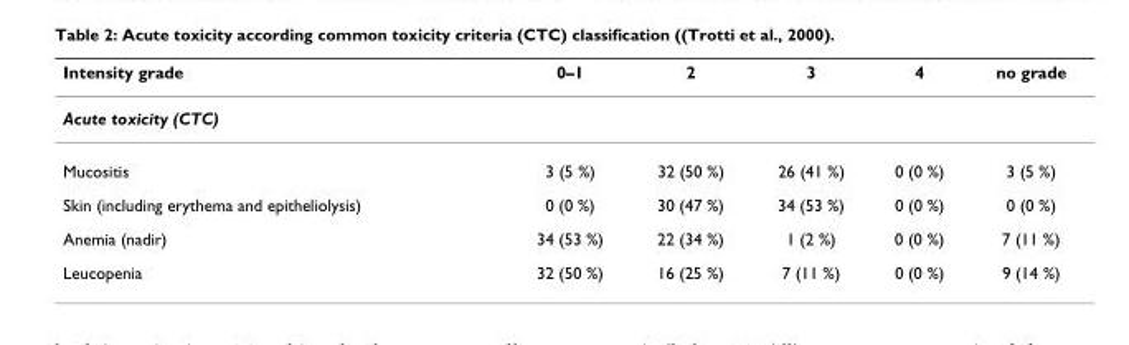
<table><thead><tr><td>Intensity grade</td><td>0–1</td><td>2</td><td>3</td><td>4</td><td>no grade</td></tr></thead><tbody><tr><td colspan="6">Acute toxicity (CTC)</td></tr><tr><td>Mucositis</td><td>3 (5 %)</td><td>32 (50 %)</td><td>26 (41 %)</td><td>0 (0 %)</td><td>3 (5 %)</td></tr><tr><td>Skin (including erythema and epitheliolysis)</td><td>0 (0 %)</td><td>30 (47 %)</td><td>34 (53 %)</td><td>0 (0 %)</td><td>0 (0 %)</td></tr><tr><td>Anemia (nadir)</td><td>34 (53 %)</td><td>22 (34 %)</td><td>1 (2 %)</td><td>0 (0 %)</td><td>7 (11 %)</td></tr><tr><td>Leucopenia</td><td>32 (50 %)</td><td>16 (25 %)</td><td>7 (11 %)</td><td>0 (0 %)</td><td>9 (14 %)</td></tr></tbody></table>